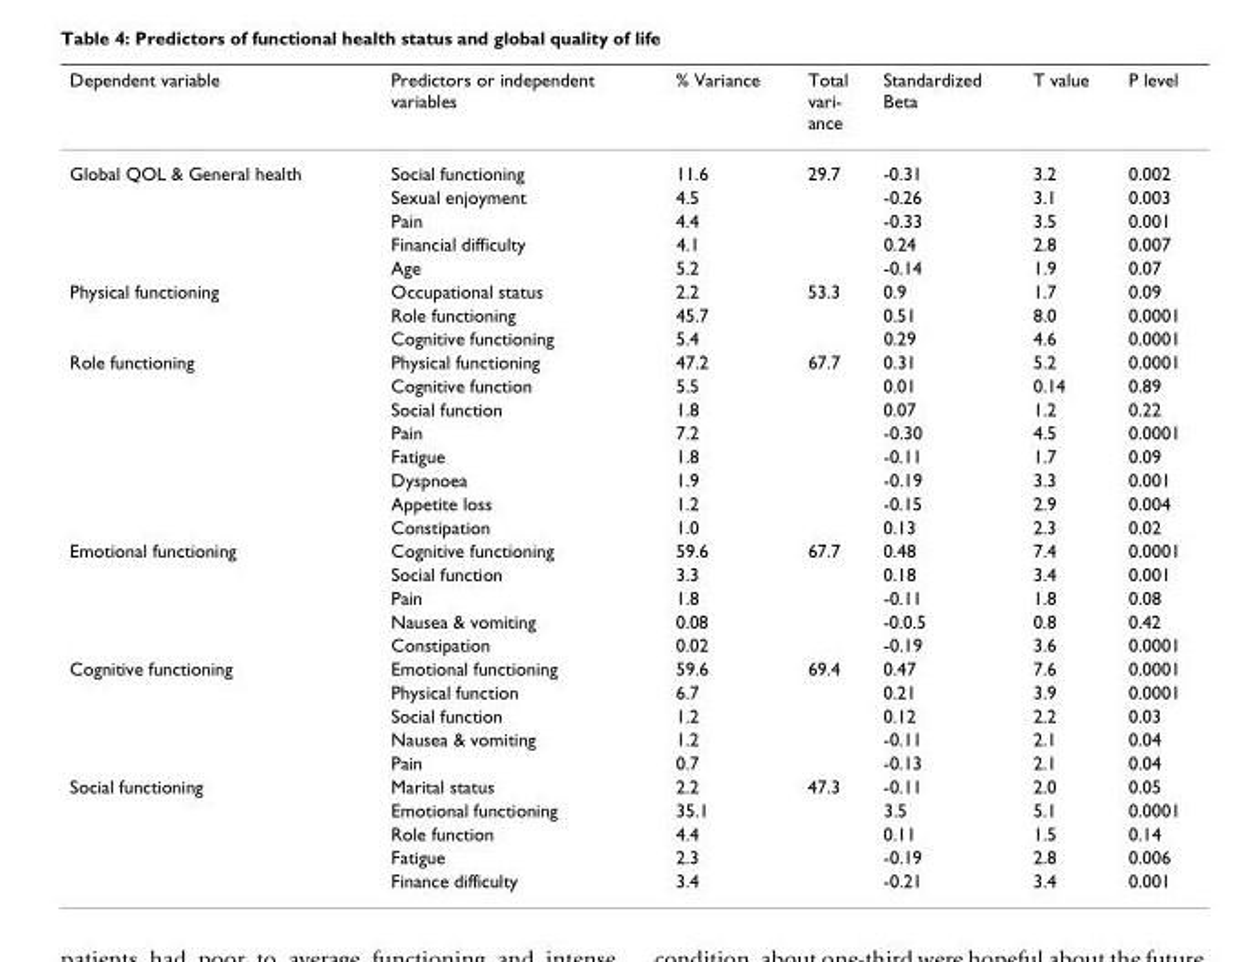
<table><thead><tr><td>Dependent variable</td><td>Predictors or independent variables</td><td>% Variance</td><td>Total vari- ance</td><td>Standardized Beta</td><td>T value</td><td>P level</td></tr></thead><tbody><tr><td rowspan="5">Global QOL &amp; General health</td><td>Social functioning</td><td>11.6</td><td>29.7</td><td>-0.31</td><td>3.2</td><td>0.002</td></tr><tr><td>Sexual enjoyment</td><td>4.5</td><td></td><td>-0.26</td><td>3.1</td><td>0.003</td></tr><tr><td>Pain</td><td>4.4</td><td></td><td>-0.33</td><td>3.5</td><td>0.001</td></tr><tr><td>Financial difficulty</td><td>4.1</td><td></td><td>0.24</td><td>2.8</td><td>0.007</td></tr><tr><td>Age</td><td>5.2</td><td></td><td>-0.14</td><td>1.9</td><td>0.07</td></tr><tr><td rowspan="3">Physical functioning</td><td>Occupational status</td><td>2.2</td><td>53.3</td><td>0.9</td><td>1.7</td><td>0.09</td></tr><tr><td>Role functioning</td><td>45.7</td><td></td><td>0.51</td><td>8.0</td><td>0.0001</td></tr><tr><td>Cognitive functioning</td><td>5.4</td><td></td><td>0.29</td><td>4.6</td><td>0.0001</td></tr><tr><td rowspan="8">Role functioning</td><td>Physical functioning</td><td>47.2</td><td>67.7</td><td>0.31</td><td>5.2</td><td>0.0001</td></tr><tr><td>Cognitive function</td><td>5.5</td><td></td><td>0.01</td><td>0.14</td><td>0.89</td></tr><tr><td>Social function</td><td>1.8</td><td></td><td>0.07</td><td>1.2</td><td>0.22</td></tr><tr><td>Pain</td><td>7.2</td><td></td><td>-0.30</td><td>4.5</td><td>0.0001</td></tr><tr><td>Fatigue</td><td>1.8</td><td></td><td>-0.11</td><td>1.7</td><td>0.09</td></tr><tr><td>Dyspnoea</td><td>1.9</td><td></td><td>-0.19</td><td>3.3</td><td>0.001</td></tr><tr><td>Appetite loss</td><td>1.2</td><td></td><td>-0.15</td><td>2.9</td><td>0.004</td></tr><tr><td>Constipation</td><td>1.0</td><td></td><td>0.13</td><td>2.3</td><td>0.02</td></tr><tr><td rowspan="5">Emotional functioning</td><td>Cognitive functioning</td><td>59.6</td><td>67.7</td><td>0.48</td><td>7.4</td><td>0.0001</td></tr><tr><td>Social function</td><td>3.3</td><td></td><td>0.18</td><td>3.4</td><td>0.001</td></tr><tr><td>Pain</td><td>1.8</td><td></td><td>-0.11</td><td>1.8</td><td>0.08</td></tr><tr><td>Nausea &amp; vomiting</td><td>0.08</td><td></td><td>-0.0.5</td><td>0.8</td><td>0.42</td></tr><tr><td>Constipation</td><td>0.02</td><td></td><td>-0.19</td><td>3.6</td><td>0.0001</td></tr><tr><td rowspan="5">Cognitive functioning</td><td>Emotional functioning</td><td>59.6</td><td>69.4</td><td>0.47</td><td>7.6</td><td>0.0001</td></tr><tr><td>Physical function</td><td>6.7</td><td></td><td>0.21</td><td>3.9</td><td>0.0001</td></tr><tr><td>Social function</td><td>1.2</td><td></td><td>0.12</td><td>2.2</td><td>0.03</td></tr><tr><td>Nausea &amp; vomiting</td><td>1.2</td><td></td><td>-0.11</td><td>2.1</td><td>0.04</td></tr><tr><td>Pain</td><td>0.7</td><td></td><td>-0.13</td><td>2.1</td><td>0.04</td></tr><tr><td rowspan="5">Social functioning</td><td>Marital status</td><td>2.2</td><td>47.3</td><td>-0.11</td><td>2.0</td><td>0.05</td></tr><tr><td>Emotional functioning</td><td>35.1</td><td></td><td>3.5</td><td>5.1</td><td>0.0001</td></tr><tr><td>Role function</td><td>4.4</td><td></td><td>0.11</td><td>1.5</td><td>0.14</td></tr><tr><td>Fatigue</td><td>2.3</td><td></td><td>-0.19</td><td>2.8</td><td>0.006</td></tr><tr><td>Finance difficulty</td><td>3.4</td><td></td><td>-0.21</td><td>3.4</td><td>0.001</td></tr></tbody></table>